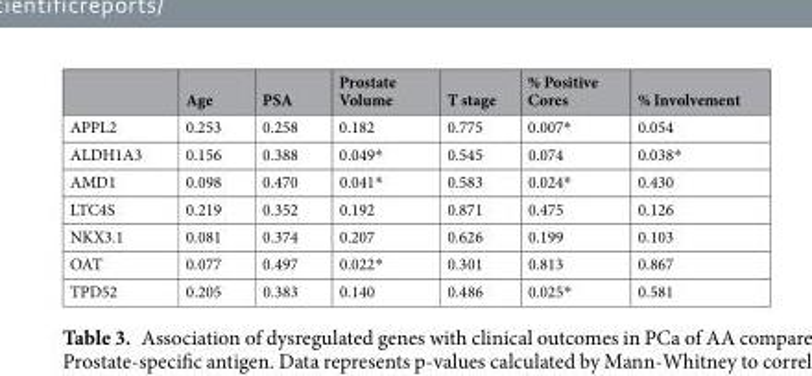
<table><thead><tr><td></td><td>Age</td><td>PSA</td><td>Prostate Volume</td><td>T stage</td><td>% Positive Cores</td><td>% Involvement</td></tr></thead><tbody><tr><td>APPL2</td><td>0.253</td><td>0.258</td><td>0.182</td><td>0.775</td><td>0.007*</td><td>0.054</td></tr><tr><td>ALDH1A3</td><td>0.156</td><td>0.388</td><td>0.049*</td><td>0.545</td><td>0.074</td><td>0.038*</td></tr><tr><td>AMD1</td><td>0.098</td><td>0.470</td><td>0.041*</td><td>0.583</td><td>0.024*</td><td>0.430</td></tr><tr><td>LTC4S</td><td>0.219</td><td>0.352</td><td>0.192</td><td>0.871</td><td>0.475</td><td>0.126</td></tr><tr><td>NKX3.1</td><td>0.081</td><td>0.374</td><td>0.207</td><td>0.626</td><td>0.199</td><td>0.103</td></tr><tr><td>OAT</td><td>0.077</td><td>0.497</td><td>0.022*</td><td>0.301</td><td>0.813</td><td>0.867</td></tr><tr><td>TPD52</td><td>0.205</td><td>0.383</td><td>0.140</td><td>0.486</td><td>0.025*</td><td>0.581</td></tr></tbody></table>